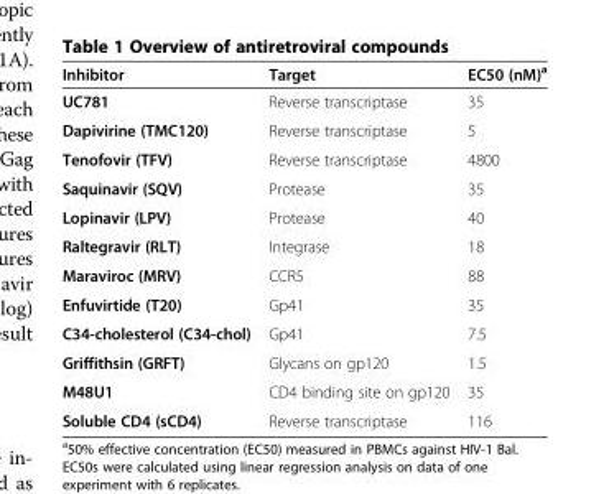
<table><thead><tr><td>Inhibitor</td><td>Target</td><td>EC50 (nM)<sup>a</sup></td></tr></thead><tbody><tr><td>UC781</td><td>Reverse transcriptase</td><td>35</td></tr><tr><td>Dapivirine (TMC120)</td><td>Reverse transcriptase</td><td>5</td></tr><tr><td>Tenofovir (TFV)</td><td>Reverse transcriptase</td><td>4800</td></tr><tr><td>Saquinavir (SQV)</td><td>Protease</td><td>35</td></tr><tr><td>Lopinavir (LPV)</td><td>Protease</td><td>40</td></tr><tr><td>Raltegravir (RLT)</td><td>Integrase</td><td>18</td></tr><tr><td>Maraviroc (MRV)</td><td>CCR5</td><td>88</td></tr><tr><td>Enfuvirtide (T20)</td><td>Gp41</td><td>35</td></tr><tr><td>C34-cholesterol (C34-chol)</td><td>Gp41</td><td>7.5</td></tr><tr><td>Griffithsin (GRFT)</td><td>Glycans on gp120</td><td>1.5</td></tr><tr><td>M48U1</td><td>CD4 binding site on gp120</td><td>35</td></tr><tr><td>Soluble CD4 (sCD4)</td><td>Reverse transcriptase</td><td>116</td></tr></tbody></table>